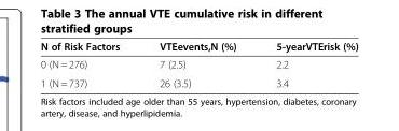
<table><thead><tr><td>N of Risk Factors</td><td>VTEevents,N (%)</td><td>5-yearVTErisk (%)</td></tr></thead><tbody><tr><td>0 (N = 276)</td><td>7 (2.5)</td><td>2.2</td></tr><tr><td>1 (N = 737)</td><td>26 (3.5)</td><td>3.4</td></tr></tbody></table>